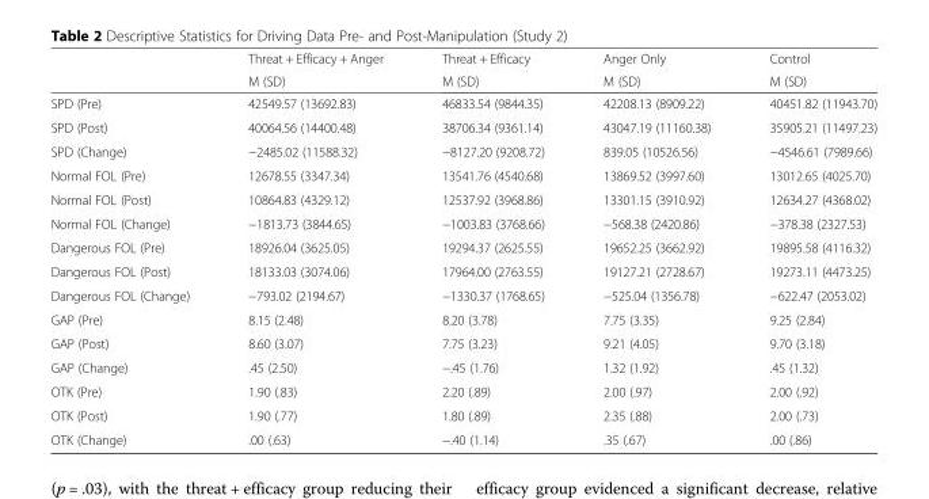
<table><thead><tr><td rowspan="2"></td><td rowspan="2">Threat + Efficacy + Anger M (SD)</td><td rowspan="2">Threat + Efficacy M (SD)</td><td rowspan="2">Anger Only M (SD)</td><td rowspan="2">Control M (SD)</td></tr><tr></tr></thead><tbody><tr><td>SPD (Pre)</td><td>42549.57 (13692.83)</td><td>46833.54 (9844.35)</td><td>42208.13 (8909.22)</td><td>40451.82 (11943.70)</td></tr><tr><td>SPD (Post)</td><td>40064.56 (14400.48)</td><td>38706.34 (9361.14)</td><td>43047.19 (11160.38)</td><td>35905.21 (11497.23)</td></tr><tr><td>SPD (Change)</td><td>−2485.02 (11588.32)</td><td>−8127.20 (9208.72)</td><td>839.05 (10526.56)</td><td>−4546.61 (7989.66)</td></tr><tr><td>Normal FOL (Pre)</td><td>12678.55 (3347.34)</td><td>13541.76 (4540.68)</td><td>13869.52 (3997.60)</td><td>13012.65 (4025.70)</td></tr><tr><td>Normal FOL (Post)</td><td>10864.83 (4329.12)</td><td>12537.92 (3968.86)</td><td>13301.15 (3910.92)</td><td>12634.27 (4368.02)</td></tr><tr><td>Normal FOL (Change)</td><td>−1813.73 (3844.65)</td><td>−1003.83 (3768.66)</td><td>−568.38 (2420.86)</td><td>−378.38 (2327.53)</td></tr><tr><td>Dangerous FOL (Pre)</td><td>18926.04 (3625.05)</td><td>19294.37 (2625.55)</td><td>19652.25 (3662.92)</td><td>19895.58 (4116.32)</td></tr><tr><td>Dangerous FOL (Post)</td><td>18133.03 (3074.06)</td><td>17964.00 (2763.55)</td><td>19127.21 (2728.67)</td><td>19273.11 (4473.25)</td></tr><tr><td>Dangerous FOL (Change)</td><td>−793.02 (2194.67)</td><td>−1330.37 (1768.65)</td><td>−525.04 (1356.78)</td><td>−622.47 (2053.02)</td></tr><tr><td>GAP (Pre)</td><td>8.15 (2.48)</td><td>8.20 (3.78)</td><td>7.75 (3.35)</td><td>9.25 (2.84)</td></tr><tr><td>GAP (Post)</td><td>8.60 (3.07)</td><td>7.75 (3.23)</td><td>9.21 (4.05)</td><td>9.70 (3.18)</td></tr><tr><td>GAP (Change)</td><td>.45 (2.50)</td><td>−.45 (1.76)</td><td>1.32 (1.92)</td><td>.45 (1.32)</td></tr><tr><td>OTK (Pre)</td><td>1.90 (.83)</td><td>2.20 (.89)</td><td>2.00 (.97)</td><td>2.00 (.92)</td></tr><tr><td>OTK (Post)</td><td>1.90 (.77)</td><td>1.80 (.89)</td><td>2.35 (.88)</td><td>2.00 (.73)</td></tr><tr><td>OTK (Change)</td><td>.00 (.63)</td><td>−.40 (1.14)</td><td>.35 (.67)</td><td>.00 (.86)</td></tr></tbody></table>